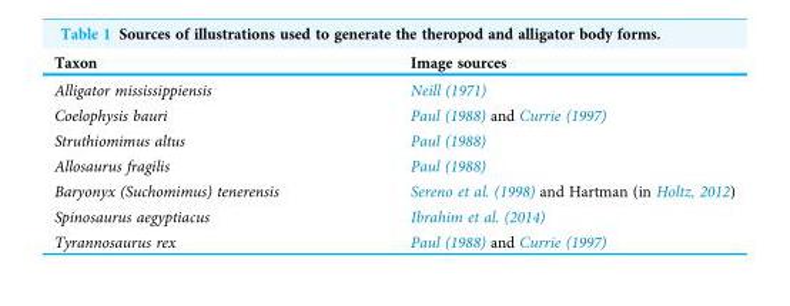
<table><thead><tr><td>Taxon</td><td>Image sources</td></tr></thead><tbody><tr><td>Alligator mississippiensis</td><td>Neill (1971)</td></tr><tr><td>Coelophysis bauri</td><td>Paul (1988) and Currie (1997)</td></tr><tr><td>Struthiomimus altus</td><td>Paul (1988)</td></tr><tr><td>Allosaurus fragilis</td><td>Paul (1988)</td></tr><tr><td>Baryonyx (Suchomimus) tenerensis</td><td>Sereno et al. (1998) and Hartman (in Holtz, 2012)</td></tr><tr><td>Spinosaurus aegyptiacus</td><td>Ibrahim et al. (2014)</td></tr><tr><td>Tyrannosaurus rex</td><td>Paul (1988) and Currie (1997)</td></tr></tbody></table>